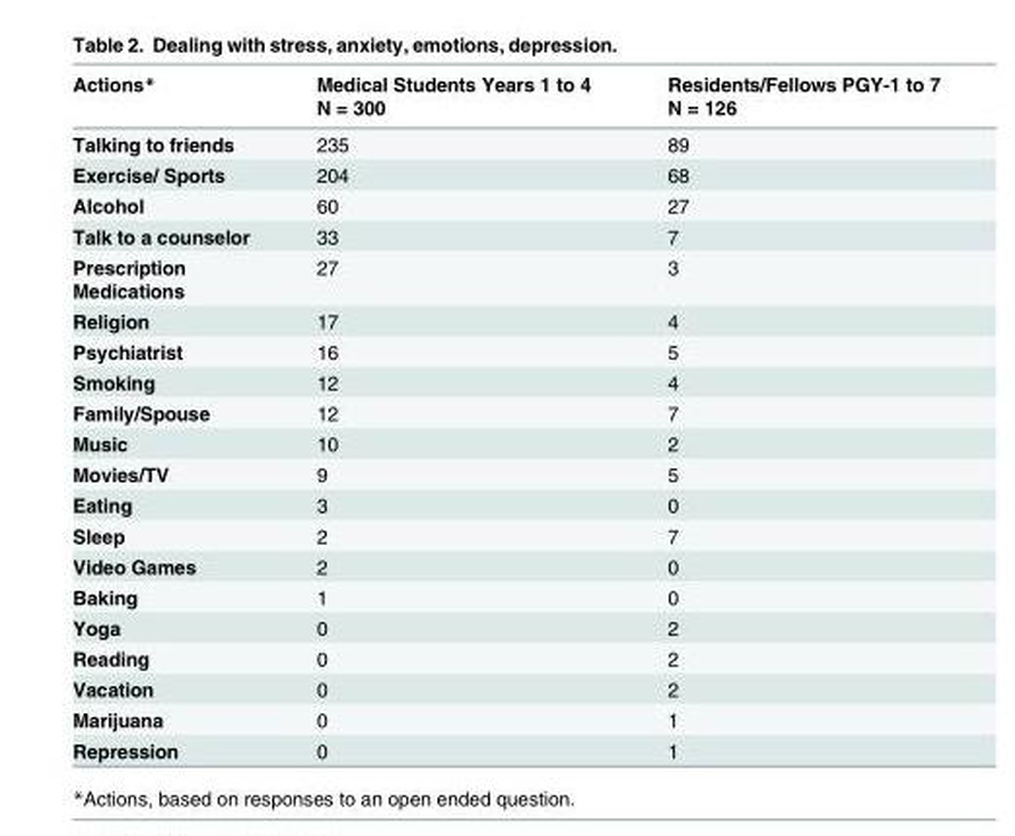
<table><thead><tr><td>Actions*</td><td>Medical Students Years 1 to 4 N = 300</td><td>Residents/Fellows PGY-1 to 7 N = 126</td></tr></thead><tbody><tr><td>Talking to friends</td><td>235</td><td>89</td></tr><tr><td>Exercise/ Sports</td><td>204</td><td>68</td></tr><tr><td>Alcohol</td><td>60</td><td>27</td></tr><tr><td>Talk to a counselor</td><td>33</td><td>7</td></tr><tr><td>Prescription Medications</td><td>27</td><td>3</td></tr><tr><td>Religion</td><td>17</td><td>4</td></tr><tr><td>Psychiatrist</td><td>16</td><td>5</td></tr><tr><td>Smoking</td><td>12</td><td>4</td></tr><tr><td>Family/Spouse</td><td>12</td><td>7</td></tr><tr><td>Music</td><td>10</td><td>2</td></tr><tr><td>Movies/TV</td><td>9</td><td>5</td></tr><tr><td>Eating</td><td>3</td><td>0</td></tr><tr><td>Sleep</td><td>2</td><td>7</td></tr><tr><td>Video Games</td><td>2</td><td>0</td></tr><tr><td>Baking</td><td>1</td><td>0</td></tr><tr><td>Yoga</td><td>0</td><td>2</td></tr><tr><td>Reading</td><td>0</td><td>2</td></tr><tr><td>Vacation</td><td>0</td><td>2</td></tr><tr><td>Marijuana</td><td>0</td><td>1</td></tr><tr><td>Repression</td><td>0</td><td>1</td></tr></tbody></table>